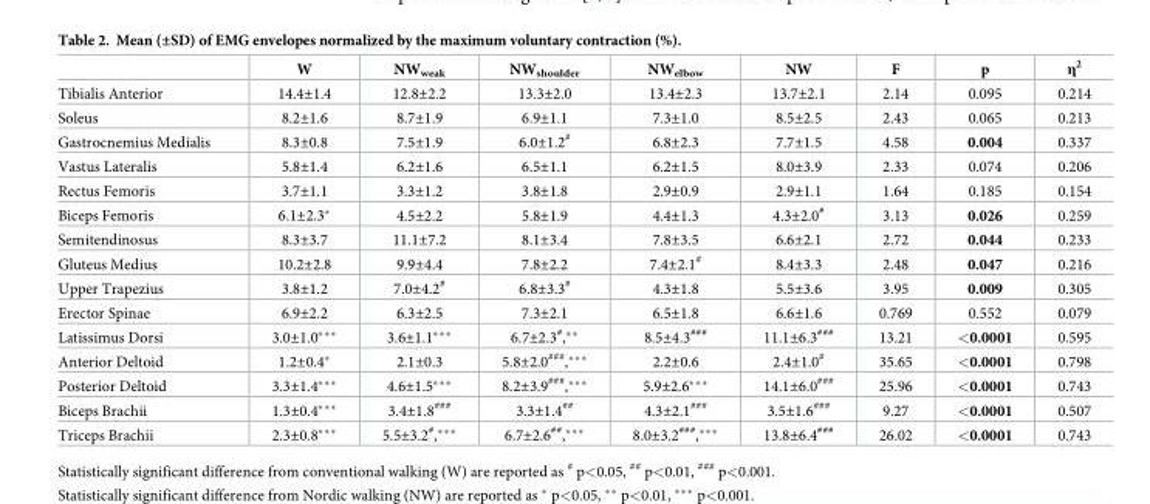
<table><thead><tr><td></td><td>W</td><td>NW<sub>weak</sub></td><td>NW<sub>shoulder</sub></td><td>NW<sub>elbow</sub></td><td>NW</td><td>F</td><td>p</td><td>η<sup>2</sup></td></tr></thead><tbody><tr><td>Tibialis Anterior</td><td>14.4±1.4</td><td>12.8±2.2</td><td>13.3±2.0</td><td>13.4±2.3</td><td>13.7±2.1</td><td>2.14</td><td>0.095</td><td>0.214</td></tr><tr><td>Soleus</td><td>8.2±1.6</td><td>8.7±1.9</td><td>6.9±1.1</td><td>7.3±1.0</td><td>8.5±2.5</td><td>2.43</td><td>0.065</td><td>0.213</td></tr><tr><td>Gastrocnemius Medialis</td><td>8.3±0.8</td><td>7.5±1.9</td><td>6.0±1.2<sup>#</sup></td><td>6.8±2.3</td><td>7.7±1.5</td><td>4.58</td><td>0.004</td><td>0.337</td></tr><tr><td>Vastus Lateralis</td><td>5.8±1.4</td><td>6.2±1.6</td><td>6.5±1.1</td><td>6.2±1.5</td><td>8.0±3.9</td><td>2.33</td><td>0.074</td><td>0.206</td></tr><tr><td>Rectus Femoris</td><td>3.7±1.1</td><td>3.3±1.2</td><td>3.8±1.8</td><td>2.9±0.9</td><td>2.9±1.1</td><td>1.64</td><td>0.185</td><td>0.154</td></tr><tr><td>Biceps Femoris</td><td>6.1±2.3*</td><td>4.5±2.2</td><td>5.8±1.9</td><td>4.4±1.3</td><td>4.3±2.0<sup>#</sup></td><td>3.13</td><td>0.026</td><td>0.259</td></tr><tr><td>Semitendinosus</td><td>8.3±3.7</td><td>11.1±7.2</td><td>8.1±3.4</td><td>7.8±3.5</td><td>6.6±2.1</td><td>2.72</td><td>0.044</td><td>0.233</td></tr><tr><td>Gluteus Medius</td><td>10.2±2.8</td><td>9.9±4.4</td><td>7.8±2.2</td><td>7.4±2.1<sup>#</sup></td><td>8.4±3.3</td><td>2.48</td><td>0.047</td><td>0.216</td></tr><tr><td>Upper Trapezius</td><td>3.8±1.2</td><td>7.0±4.2<sup>#</sup></td><td>6.8±3.3<sup>#</sup></td><td>4.3±1.8</td><td>5.5±3.6</td><td>3.95</td><td>0.009</td><td>0.305</td></tr><tr><td>Erector Spinae</td><td>6.9±2.2</td><td>6.3±2.5</td><td>7.3±2.1</td><td>6.5±1.8</td><td>6.6±1.6</td><td>0.769</td><td>0.552</td><td>0.079</td></tr><tr><td>Latissimus Dorsi</td><td>3.0±1.0***</td><td>3.6±1.1***</td><td>6.7±2.3<sup>#</sup>,**</td><td>8.5±4.3<sup>###</sup></td><td>11.1±6.3<sup>###</sup></td><td>13.21</td><td>&lt;0.0001</td><td>0.595</td></tr><tr><td>Anterior Deltoid</td><td>1.2±0.4*</td><td>2.1±0.3</td><td>5.8±2.0<sup>###</sup>,***</td><td>2.2±0.6</td><td>2.4±1.0<sup>#</sup></td><td>35.65</td><td>&lt;0.0001</td><td>0.798</td></tr><tr><td>Posterior Deltoid</td><td>3.3±1.4***</td><td>4.6±1.5***</td><td>8.2±3.9<sup>###</sup>,***</td><td>5.9±2.6***</td><td>14.1±6.0<sup>###</sup></td><td>25.96</td><td>&lt;0.0001</td><td>0.743</td></tr><tr><td>Biceps Brachii</td><td>1.3±0.4***</td><td>3.4±1.8<sup>###</sup></td><td>3.3±1.4<sup>##</sup></td><td>4.3±2.1<sup>###</sup></td><td>3.5±1.6<sup>###</sup></td><td>9.27</td><td>&lt;0.0001</td><td>0.507</td></tr><tr><td>Triceps Brachii</td><td>2.3±0.8***</td><td>5.5±3.2<sup>#</sup>,***</td><td>6.7±2.6<sup>##</sup>,***</td><td>8.0±3.2<sup>###</sup>,***</td><td>13.8±6.4<sup>###</sup></td><td>26.02</td><td>&lt;0.0001</td><td>0.743</td></tr></tbody></table>